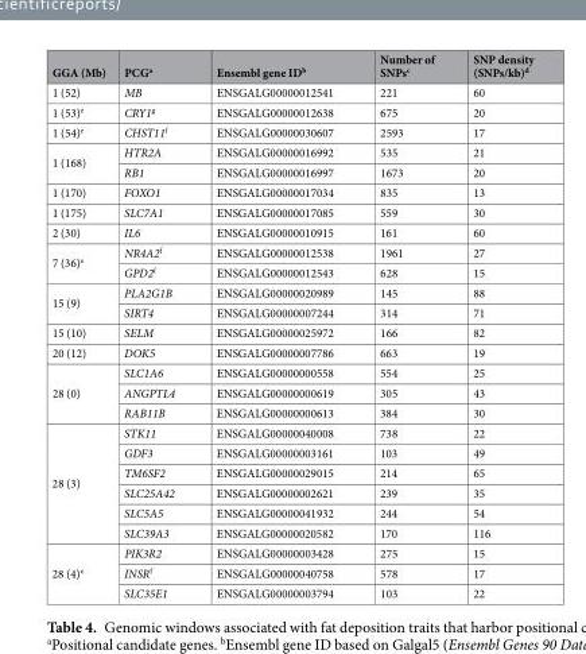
<table><thead><tr><td>GGA (Mb)</td><td>PCG<sup>a</sup></td><td>Ensembl gene ID<sup>b</sup></td><td>Number of SNPs<sup>c</sup></td><td>SNP density (SNPs/kb)<sup>d</sup></td></tr></thead><tbody><tr><td>1 (52)</td><td>MB</td><td>ENSGALG00000012541</td><td>221</td><td>60</td></tr><tr><td>1 (53)<sup>e</sup></td><td>CRY1<sup>g</sup></td><td>ENSGALG00000012638</td><td>675</td><td>20</td></tr><tr><td>1 (54)<sup>e</sup></td><td>CHST11<sup>f</sup></td><td>ENSGALG00000030607</td><td>2593</td><td>17</td></tr><tr><td rowspan="2">1 (168)</td><td>HTR2A</td><td>ENSGALG00000016992</td><td>535</td><td>21</td></tr><tr><td>RB1</td><td>ENSGALG00000016997</td><td>1673</td><td>20</td></tr><tr><td>1 (170)</td><td>FOXO1</td><td>ENSGALG00000017034</td><td>835</td><td>13</td></tr><tr><td>1 (175)</td><td>SLC7A1</td><td>ENSGALG00000017085</td><td>559</td><td>30</td></tr><tr><td>2 (30)</td><td>IL6</td><td>ENSGALG00000010915</td><td>161</td><td>60</td></tr><tr><td rowspan="2">7 (36)<sup>e</sup></td><td>NR4A2<sup>f</sup></td><td>ENSGALG00000012538</td><td>1961</td><td>27</td></tr><tr><td>GPD2<sup>f</sup></td><td>ENSGALG00000012543</td><td>628</td><td>15</td></tr><tr><td rowspan="2">15 (9)</td><td>PLA2G1B</td><td>ENSGALG00000020989</td><td>145</td><td>88</td></tr><tr><td>SIRT4</td><td>ENSGALG00000007244</td><td>314</td><td>71</td></tr><tr><td>15 (10)</td><td>SELM</td><td>ENSGALG00000025972</td><td>166</td><td>82</td></tr><tr><td>20 (12)</td><td>DOK5</td><td>ENSGALG00000007786</td><td>663</td><td>19</td></tr><tr><td rowspan="3">28 (0)</td><td>SLC1A6</td><td>ENSGALG00000000558</td><td>554</td><td>25</td></tr><tr><td>ANGPTL4</td><td>ENSGALG00000000619</td><td>305</td><td>43</td></tr><tr><td>RAB11B</td><td>ENSGALG00000000613</td><td>384</td><td>30</td></tr><tr><td rowspan="6">28 (3)</td><td>STK11</td><td>ENSGALG00000040008</td><td>738</td><td>22</td></tr><tr><td>GDF3</td><td>ENSGALG00000003161</td><td>103</td><td>49</td></tr><tr><td>TM6SF2</td><td>ENSGALG00000029015</td><td>214</td><td>65</td></tr><tr><td>SLC25A42</td><td>ENSGALG00000002621</td><td>239</td><td>35</td></tr><tr><td>SLC5A5</td><td>ENSGALG00000041932</td><td>244</td><td>54</td></tr><tr><td>SLC39A3</td><td>ENSGALG00000020582</td><td>170</td><td>116</td></tr><tr><td rowspan="3">28 (4)<sup>e</sup></td><td>PIK3R2</td><td>ENSGALG00000003428</td><td>275</td><td>15</td></tr><tr><td>INSR<sup>f</sup></td><td>ENSGALG00000040758</td><td>578</td><td>17</td></tr><tr><td>SLC35E1</td><td>ENSGALG00000003794</td><td>103</td><td>22</td></tr></tbody></table>